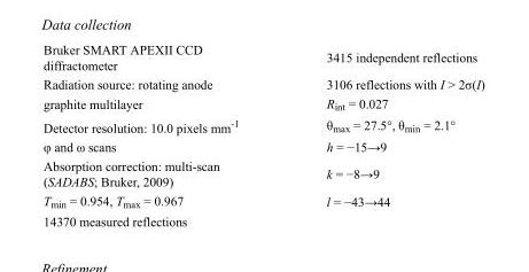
<table><tbody><tr><td>Bruker SMART APEXII CCD diffractometer</td><td>3415 independent reflections</td></tr><tr><td>Radiation source: rotating anode</td><td>3106 reflections with I &gt; 2σ(I)</td></tr><tr><td>graphite multilayer</td><td>R<sub>int</sub> = 0.027</td></tr><tr><td>Detector resolution: 10.0 pixels mm<sup>-1</sup></td><td>θ<sub>max</sub> = 27.5°, θ<sub>min</sub> = 2.1°</td></tr><tr><td>φ and ω scans</td><td>h = −15→9</td></tr><tr><td>Absorption correction: multi-scan (SADABS; Bruker, 2009)</td><td>k = −8→9</td></tr><tr><td>T<sub>min</sub> = 0.954, T<sub>max</sub> = 0.967</td><td>l = −43→44</td></tr><tr><td>14370 measured reflections</td><td></td></tr></tbody></table>